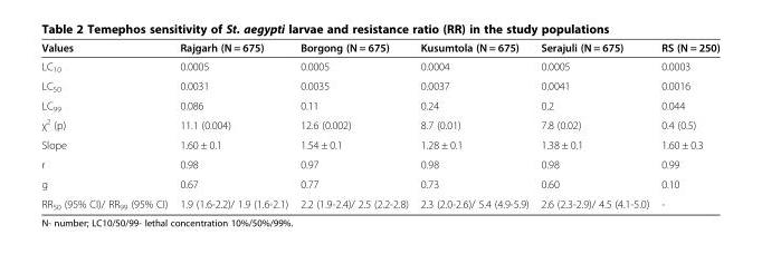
<table><thead><tr><td>Values</td><td>Rajgarh (N = 675)</td><td>Borgong (N = 675)</td><td>Kusumtola (N = 675)</td><td>Serajuli (N = 675)</td><td>RS (N = 250)</td></tr></thead><tbody><tr><td>LC<sub>10</sub></td><td>0.0005</td><td>0.0005</td><td>0.0004</td><td>0.0005</td><td>0.0003</td></tr><tr><td>LC<sub>50</sub></td><td>0.0031</td><td>0.0035</td><td>0.0037</td><td>0.0041</td><td>0.0016</td></tr><tr><td>LC<sub>99</sub></td><td>0.086</td><td>0.11</td><td>0.24</td><td>0.2</td><td>0.044</td></tr><tr><td>χ<sup>2</sup> (p)</td><td>11.1 (0.004)</td><td>12.6 (0.002)</td><td>8.7 (0.01)</td><td>7.8 (0.02)</td><td>0.4 (0.5)</td></tr><tr><td>Slope</td><td>1.60 ± 0.1</td><td>1.54 ± 0.1</td><td>1.28 ± 0.1</td><td>1.38 ± 0.1</td><td>1.60 ± 0.3</td></tr><tr><td>r</td><td>0.98</td><td>0.97</td><td>0.98</td><td>0.98</td><td>0.99</td></tr><tr><td>g</td><td>0.67</td><td>0.77</td><td>0.73</td><td>0.60</td><td>0.10</td></tr><tr><td>RR<sub>50</sub> (95% CI)/ RR<sub>99</sub> (95% CI)</td><td>1.9 (1.6-2.2)/ 1.9 (1.6-2.1)</td><td>2.2 (1.9-2.4)/ 2.5 (2.2-2.8)</td><td>2.3 (2.0-2.6)/ 5.4 (4.9-5.9)</td><td>2.6 (2.3-2.9)/ 4.5 (4.1-5.0)</td><td>-</td></tr></tbody></table>